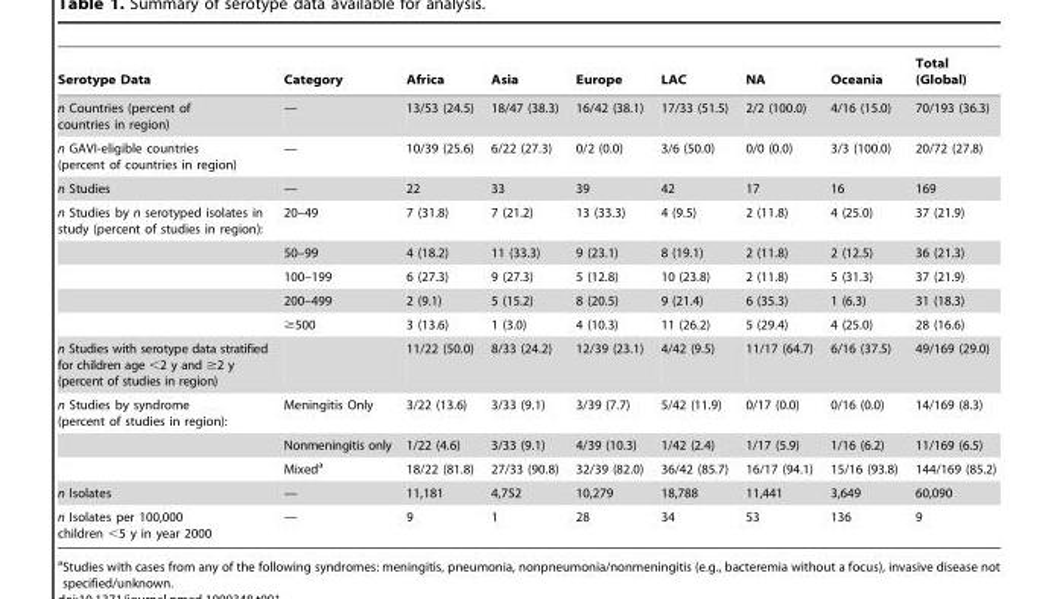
<table><thead><tr><td>Serotype Data</td><td>Category</td><td>Africa</td><td>Asia</td><td>Europe</td><td>LAC</td><td>NA</td><td>Oceania</td><td>Total (Global)</td></tr></thead><tbody><tr><td>n Countries (percent of countries in region)</td><td>—</td><td>13/53 (24.5)</td><td>18/47 (38.3)</td><td>16/42 (38.1)</td><td>17/33 (51.5)</td><td>2/2 (100.0)</td><td>4/16 (15.0)</td><td>70/193 (36.3)</td></tr><tr><td>n GAVI-eligible countries (percent of countries in region)</td><td>—</td><td>10/39 (25.6)</td><td>6/22 (27.3)</td><td>0/2 (0.0)</td><td>3/6 (50.0)</td><td>0/0 (0.0)</td><td>3/3 (100.0)</td><td>20/72 (27.8)</td></tr><tr><td>n Studies</td><td>—</td><td>22</td><td>33</td><td>39</td><td>42</td><td>17</td><td>16</td><td>169</td></tr><tr><td rowspan="5">n Studies by n serotyped isolates in study (percent of studies in region):</td><td>20–49</td><td>7 (31.8)</td><td>7 (21.2)</td><td>13 (33.3)</td><td>4 (9.5)</td><td>2 (11.8)</td><td>4 (25.0)</td><td>37 (21.9)</td></tr><tr><td>50–99</td><td>4 (18.2)</td><td>11 (33.3)</td><td>9 (23.1)</td><td>8 (19.1)</td><td>2 (11.8)</td><td>2 (12.5)</td><td>36 (21.3)</td></tr><tr><td>100–199</td><td>6 (27.3)</td><td>9 (27.3)</td><td>5 (12.8)</td><td>10 (23.8)</td><td>2 (11.8)</td><td>5 (31.3)</td><td>37 (21.9)</td></tr><tr><td>200–499</td><td>2 (9.1)</td><td>5 (15.2)</td><td>8 (20.5)</td><td>9 (21.4)</td><td>6 (35.3)</td><td>1 (6.3)</td><td>31 (18.3)</td></tr><tr><td>≥500</td><td>3 (13.6)</td><td>1 (3.0)</td><td>4 (10.3)</td><td>11 (26.2)</td><td>5 (29.4)</td><td>4 (25.0)</td><td>28 (16.6)</td></tr><tr><td>n Studies with serotype data stratified for children age &lt;2 y and ≥2 y (percent of studies in region)</td><td></td><td>11/22 (50.0)</td><td>8/33 (24.2)</td><td>12/39 (23.1)</td><td>4/42 (9.5)</td><td>11/17 (64.7)</td><td>6/16 (37.5)</td><td>49/169 (29.0)</td></tr><tr><td rowspan="3">n Studies by syndrome (percent of studies in region):</td><td>Meningitis Only</td><td>3/22 (13.6)</td><td>3/33 (9.1)</td><td>3/39 (7.7)</td><td>5/42 (11.9)</td><td>0/17 (0.0)</td><td>0/16 (0.0)</td><td>14/169 (8.3)</td></tr><tr><td>Nonmeningitis only</td><td>1/22 (4.6)</td><td>3/33 (9.1)</td><td>4/39 (10.3)</td><td>1/42 (2.4)</td><td>1/17 (5.9)</td><td>1/16 (6.2)</td><td>11/169 (6.5)</td></tr><tr><td>Mixed<sup>a</sup></td><td>18/22 (81.8)</td><td>27/33 (90.8)</td><td>32/39 (82.0)</td><td>36/42 (85.7)</td><td>16/17 (94.1)</td><td>15/16 (93.8)</td><td>144/169 (85.2)</td></tr><tr><td>n Isolates</td><td>—</td><td>11,181</td><td>4,752</td><td>10,279</td><td>18,788</td><td>11,441</td><td>3,649</td><td>60,090</td></tr><tr><td>n Isolates per 100,000 children &lt;5 y in year 2000</td><td>—</td><td>9</td><td>1</td><td>28</td><td>34</td><td>53</td><td>136</td><td>9</td></tr></tbody></table>